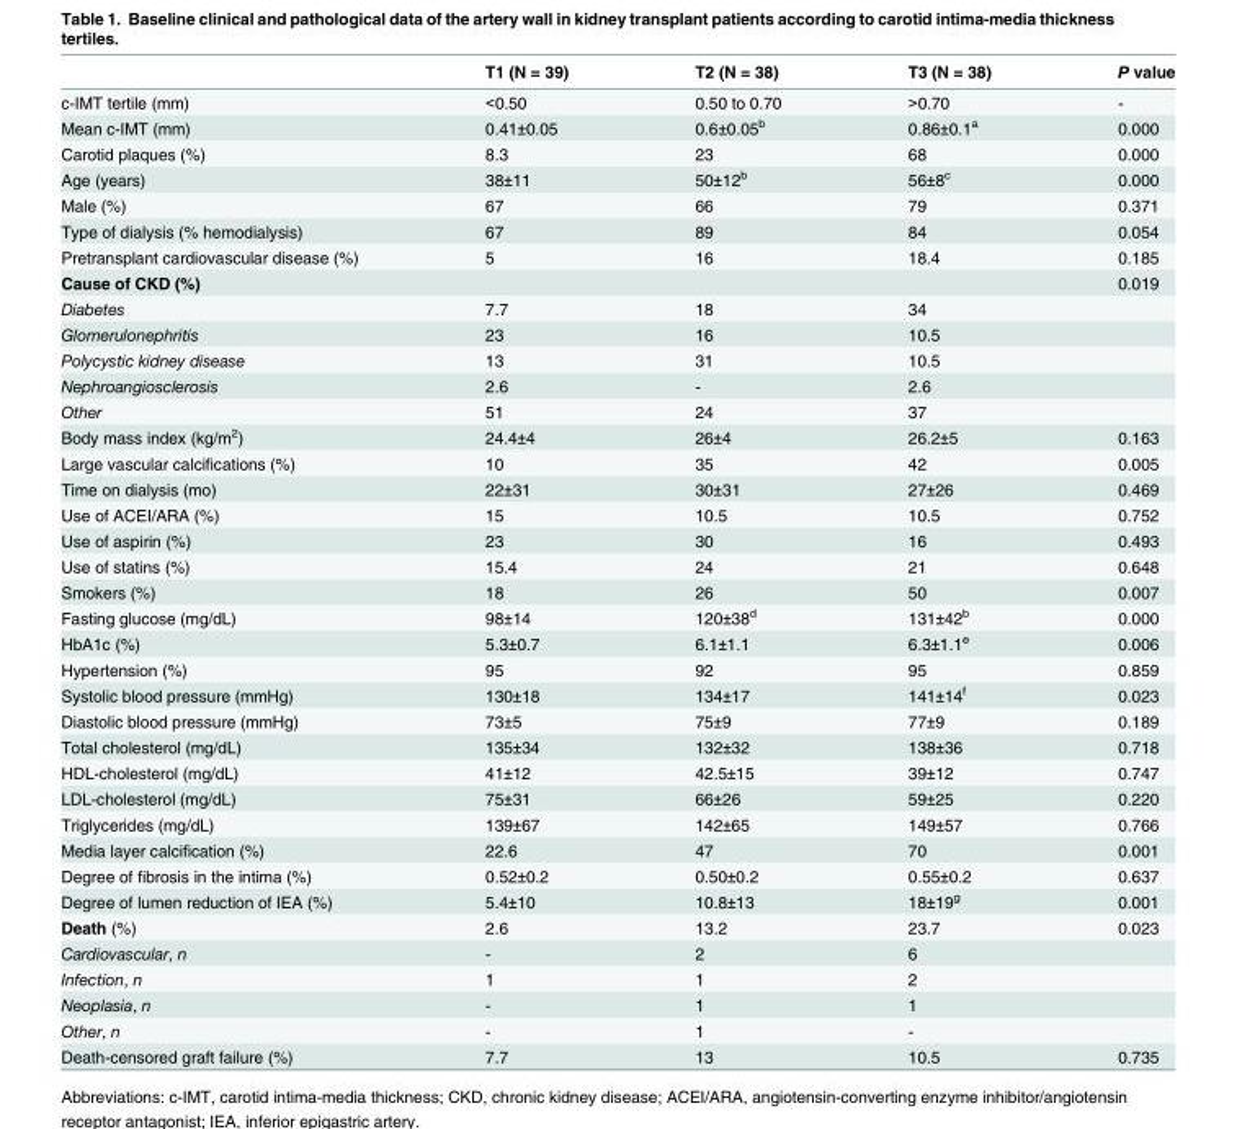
<table><thead><tr><td></td><td>T1 (N = 39)</td><td>T2 (N = 38)</td><td>T3 (N = 38)</td><td>P value</td></tr></thead><tbody><tr><td>c-IMT tertile (mm)</td><td>&lt;0.50</td><td>0.50 to 0.70</td><td>&gt;0.70</td><td>-</td></tr><tr><td>Mean c-IMT (mm)</td><td>0.41±0.05</td><td>0.6±0.05<sup>b</sup></td><td>0.86±0.1<sup>a</sup></td><td>0.000</td></tr><tr><td>Carotid plaques (%)</td><td>8.3</td><td>23</td><td>68</td><td>0.000</td></tr><tr><td>Age (years)</td><td>38±11</td><td>50±12<sup>b</sup></td><td>56±8<sup>c</sup></td><td>0.000</td></tr><tr><td>Male (%)</td><td>67</td><td>66</td><td>79</td><td>0.371</td></tr><tr><td>Type of dialysis (% hemodialysis)</td><td>67</td><td>89</td><td>84</td><td>0.054</td></tr><tr><td>Pretransplant cardiovascular disease (%)</td><td>5</td><td>16</td><td>18.4</td><td>0.185</td></tr><tr><td>Cause of CKD (%)</td><td></td><td></td><td></td><td>0.019</td></tr><tr><td>Diabetes</td><td>7.7</td><td>18</td><td>34</td><td></td></tr><tr><td>Glomerulonephritis</td><td>23</td><td>16</td><td>10.5</td><td></td></tr><tr><td>Polycystic kidney disease</td><td>13</td><td>31</td><td>10.5</td><td></td></tr><tr><td>Nephroangiosclerosis</td><td>2.6</td><td>-</td><td>2.6</td><td></td></tr><tr><td>Other</td><td>51</td><td>24</td><td>37</td><td></td></tr><tr><td>Body mass index (kg/m<sup>2</sup>)</td><td>24.4±4</td><td>26±4</td><td>26.2±5</td><td>0.163</td></tr><tr><td>Large vascular calcifications (%)</td><td>10</td><td>35</td><td>42</td><td>0.005</td></tr><tr><td>Time on dialysis (mo)</td><td>22±31</td><td>30±31</td><td>27±26</td><td>0.469</td></tr><tr><td>Use of ACEI/ARA (%)</td><td>15</td><td>10.5</td><td>10.5</td><td>0.752</td></tr><tr><td>Use of aspirin (%)</td><td>23</td><td>30</td><td>16</td><td>0.493</td></tr><tr><td>Use of statins (%)</td><td>15.4</td><td>24</td><td>21</td><td>0.648</td></tr><tr><td>Smokers (%)</td><td>18</td><td>26</td><td>50</td><td>0.007</td></tr><tr><td>Fasting glucose (mg/dL)</td><td>98±14</td><td>120±38<sup>d</sup></td><td>131±42<sup>b</sup></td><td>0.000</td></tr><tr><td>HbA1c (%)</td><td>5.3±0.7</td><td>6.1±1.1</td><td>6.3±1.1<sup>e</sup></td><td>0.006</td></tr><tr><td>Hypertension (%)</td><td>95</td><td>92</td><td>95</td><td>0.859</td></tr><tr><td>Systolic blood pressure (mmHg)</td><td>130±18</td><td>134±17</td><td>141±14<sup>f</sup></td><td>0.023</td></tr><tr><td>Diastolic blood pressure (mmHg)</td><td>73±5</td><td>75±9</td><td>77±9</td><td>0.189</td></tr><tr><td>Total cholesterol (mg/dL)</td><td>135±34</td><td>132±32</td><td>138±36</td><td>0.718</td></tr><tr><td>HDL-cholesterol (mg/dL)</td><td>41±12</td><td>42.5±15</td><td>39±12</td><td>0.747</td></tr><tr><td>LDL-cholesterol (mg/dL)</td><td>75±31</td><td>66±26</td><td>59±25</td><td>0.220</td></tr><tr><td>Triglycerides (mg/dL)</td><td>139±67</td><td>142±65</td><td>149±57</td><td>0.766</td></tr><tr><td>Media layer calcification (%)</td><td>22.6</td><td>47</td><td>70</td><td>0.001</td></tr><tr><td>Degree of fibrosis in the intima (%)</td><td>0.52±0.2</td><td>0.50±0.2</td><td>0.55±0.2</td><td>0.637</td></tr><tr><td>Degree of lumen reduction of IEA (%)</td><td>5.4±10</td><td>10.8±13</td><td>18±19<sup>g</sup></td><td>0.001</td></tr><tr><td>Death (%)</td><td>2.6</td><td>13.2</td><td>23.7</td><td>0.023</td></tr><tr><td>Cardiovascular, n</td><td>-</td><td>2</td><td>6</td><td></td></tr><tr><td>Infection, n</td><td>1</td><td>1</td><td>2</td><td></td></tr><tr><td>Neoplasia, n</td><td>-</td><td>1</td><td>1</td><td></td></tr><tr><td>Other, n</td><td>-</td><td>1</td><td>-</td><td></td></tr><tr><td>Death-censored graft failure (%)</td><td>7.7</td><td>13</td><td>10.5</td><td>0.735</td></tr></tbody></table>